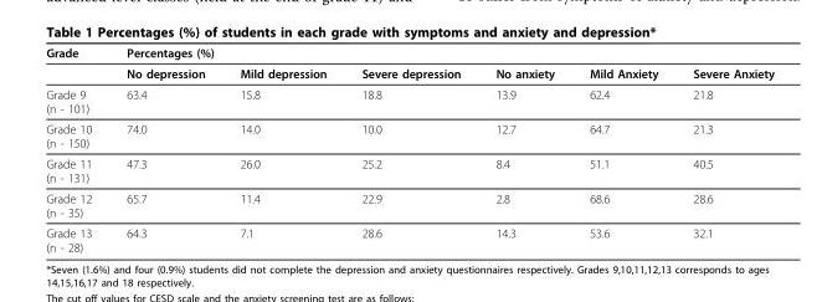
<table><thead><tr><td rowspan="2">Grade</td><td colspan="6">Percentages (%)</td></tr><tr><td>No depression</td><td>Mild depression</td><td>Severe depression</td><td>No anxiety</td><td>Mild Anxiety</td><td>Severe Anxiety</td></tr></thead><tbody><tr><td>Grade 9 (n - 101)</td><td>63.4</td><td>15.8</td><td>18.8</td><td>13.9</td><td>62.4</td><td>21.8</td></tr><tr><td>Grade 10 (n - 150)</td><td>74.0</td><td>14.0</td><td>10.0</td><td>12.7</td><td>64.7</td><td>21.3</td></tr><tr><td>Grade 11 (n - 131)</td><td>47.3</td><td>26.0</td><td>25.2</td><td>8.4</td><td>51.1</td><td>40.5</td></tr><tr><td>Grade 12 (n - 35)</td><td>65.7</td><td>11.4</td><td>22.9</td><td>2.8</td><td>68.6</td><td>28.6</td></tr><tr><td>Grade 13 (n - 28)</td><td>64.3</td><td>7.1</td><td>28.6</td><td>14.3</td><td>53.6</td><td>32.1</td></tr></tbody></table>